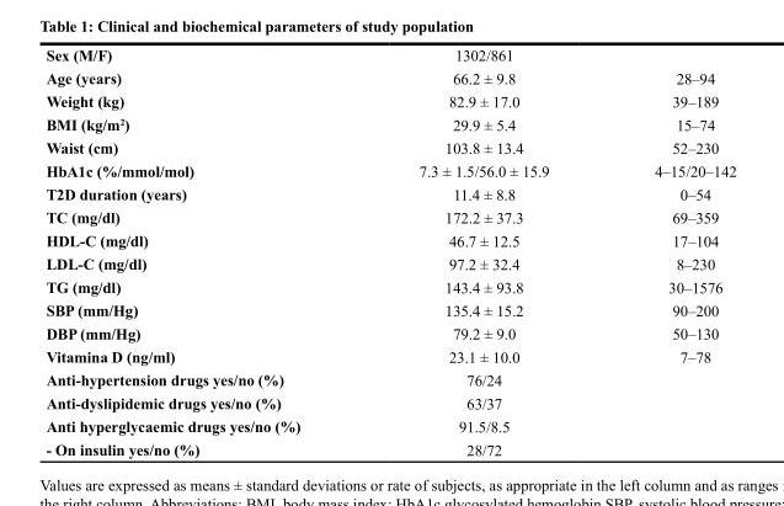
<table><tbody><tr><td>Sex (M/F)</td><td>1302/861</td><td></td></tr><tr><td>Age (years)</td><td>66.2 ± 9.8</td><td>28–94</td></tr><tr><td>Weight (kg)</td><td>82.9 ± 17.0</td><td>39–189</td></tr><tr><td>BMI (kg/m<sup>2</sup>)</td><td>29.9 ± 5.4</td><td>15–74</td></tr><tr><td>Waist (cm)</td><td>103.8 ± 13.4</td><td>52–230</td></tr><tr><td>HbA1c (%/mmol/mol)</td><td>7.3 ± 1.5/56.0 ± 15.9</td><td>4–15/20–142</td></tr><tr><td>T2D duration (years)</td><td>11.4 ± 8.8</td><td>0–54</td></tr><tr><td>TC (mg/dl)</td><td>172.2 ± 37.3</td><td>69–359</td></tr><tr><td>HDL-C (mg/dl)</td><td>46.7 ± 12.5</td><td>17–104</td></tr><tr><td>LDL-C (mg/dl)</td><td>97.2 ± 32.4</td><td>8–230</td></tr><tr><td>TG (mg/dl)</td><td>143.4 ± 93.8</td><td>30–1576</td></tr><tr><td>SBP (mm/Hg)</td><td>135.4 ± 15.2</td><td>90–200</td></tr><tr><td>DBP (mm/Hg)</td><td>79.2 ± 9.0</td><td>50–130</td></tr><tr><td>Vitamina D (ng/ml)</td><td>23.1 ± 10.0</td><td>7–78</td></tr><tr><td>Anti-hypertension drugs yes/no (%)</td><td>76/24</td><td></td></tr><tr><td>Anti-dyslipidemic drugs yes/no (%)</td><td>63/37</td><td></td></tr><tr><td>Anti hyperglycaemic drugs yes/no (%)</td><td>91.5/8.5</td><td></td></tr><tr><td>- On insulin yes/no (%)</td><td>28/72</td><td></td></tr></tbody></table>